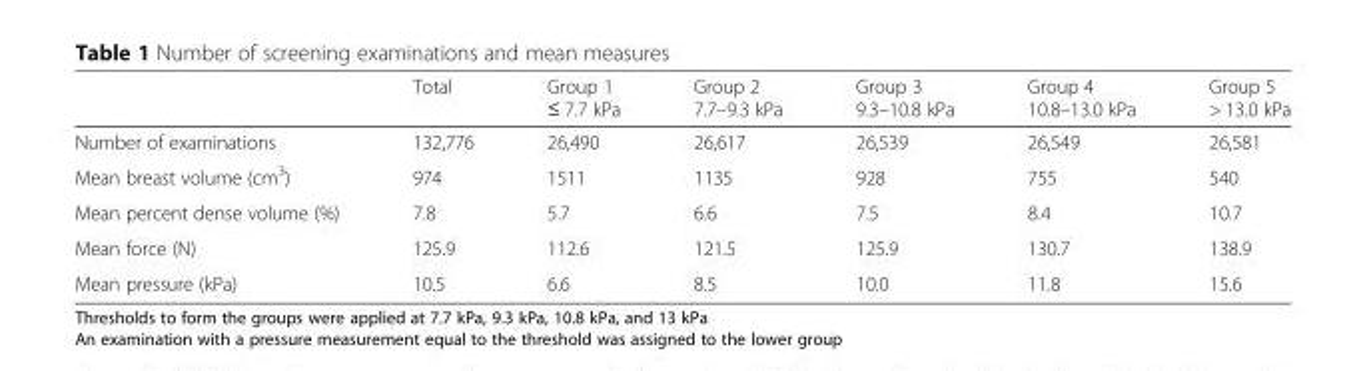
<table><thead><tr><td></td><td>Total</td><td>Group 1 ≤ 7.7 kPa</td><td>Group 2 7.7–9.3 kPa</td><td>Group 3 9.3–10.8 kPa</td><td>Group 4 10.8–13.0 kPa</td><td>Group 5 &gt; 13.0 kPa</td></tr></thead><tbody><tr><td>Number of examinations</td><td>132,776</td><td>26,490</td><td>26,617</td><td>26,539</td><td>26,549</td><td>26,581</td></tr><tr><td>Mean breast volume (cm<sup>3</sup>)</td><td>974</td><td>1511</td><td>1135</td><td>928</td><td>755</td><td>540</td></tr><tr><td>Mean percent dense volume (%)</td><td>7.8</td><td>5.7</td><td>6.6</td><td>7.5</td><td>8.4</td><td>10.7</td></tr><tr><td>Mean force (N)</td><td>125.9</td><td>112.6</td><td>121.5</td><td>125.9</td><td>130.7</td><td>138.9</td></tr><tr><td>Mean pressure (kPa)</td><td>10.5</td><td>6.6</td><td>8.5</td><td>10.0</td><td>11.8</td><td>15.6</td></tr></tbody></table>